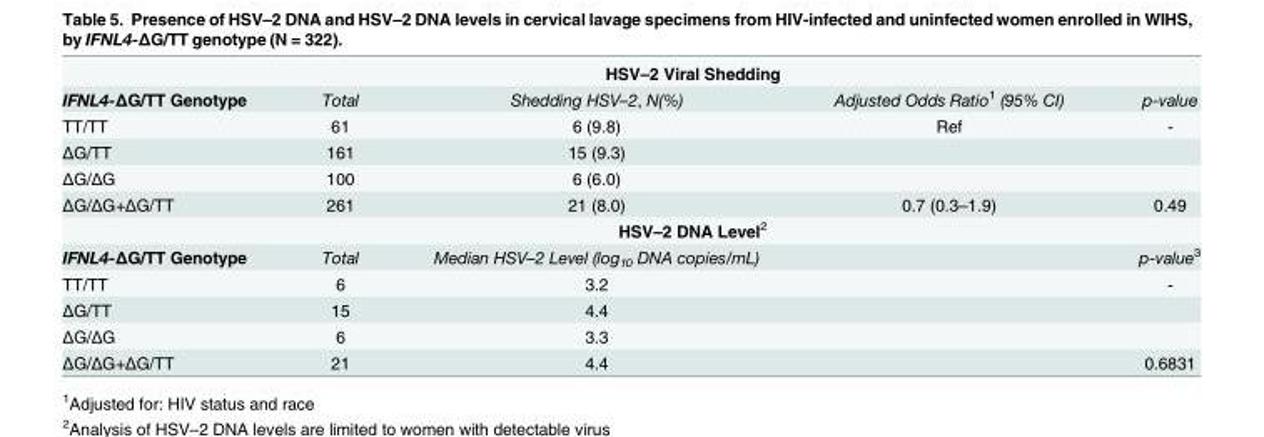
<table><thead><tr><td rowspan="2">IFNL4-ΔG/TT Genotype</td><td colspan="3">HSV–2 Viral Shedding</td><td rowspan="2">p-value</td></tr><tr><td>Total</td><td>Shedding HSV–2, N(%)</td><td>Adjusted Odds Ratio<sup>1</sup> (95% CI)</td></tr></thead><tbody><tr><td>TT/TT</td><td>61</td><td>6 (9.8)</td><td>Ref</td><td>-</td></tr><tr><td>ΔG/TT</td><td>161</td><td>15 (9.3)</td><td></td><td></td></tr><tr><td>ΔG/ΔG</td><td>100</td><td>6 (6.0)</td><td></td><td></td></tr><tr><td rowspan="2">ΔG/ΔG+ΔG/TT</td><td>261</td><td>21 (8.0)</td><td>0.7 (0.3–1.9)</td><td>0.49</td></tr><tr><td colspan="3">HSV–2 DNA Level<sup>2</sup></td><td></td></tr><tr><td>IFNL4-ΔG/TT Genotype</td><td>Total</td><td>Median HSV–2 Level (log<sub>10</sub> DNA copies/mL)</td><td></td><td>p-value<sup>3</sup></td></tr><tr><td>TT/TT</td><td>6</td><td>3.2</td><td></td><td>-</td></tr><tr><td>ΔG/TT</td><td>15</td><td>4.4</td><td></td><td></td></tr><tr><td>ΔG/ΔG</td><td>6</td><td>3.3</td><td></td><td></td></tr><tr><td>ΔG/ΔG+ΔG/TT</td><td>21</td><td>4.4</td><td></td><td>0.6831</td></tr></tbody></table>